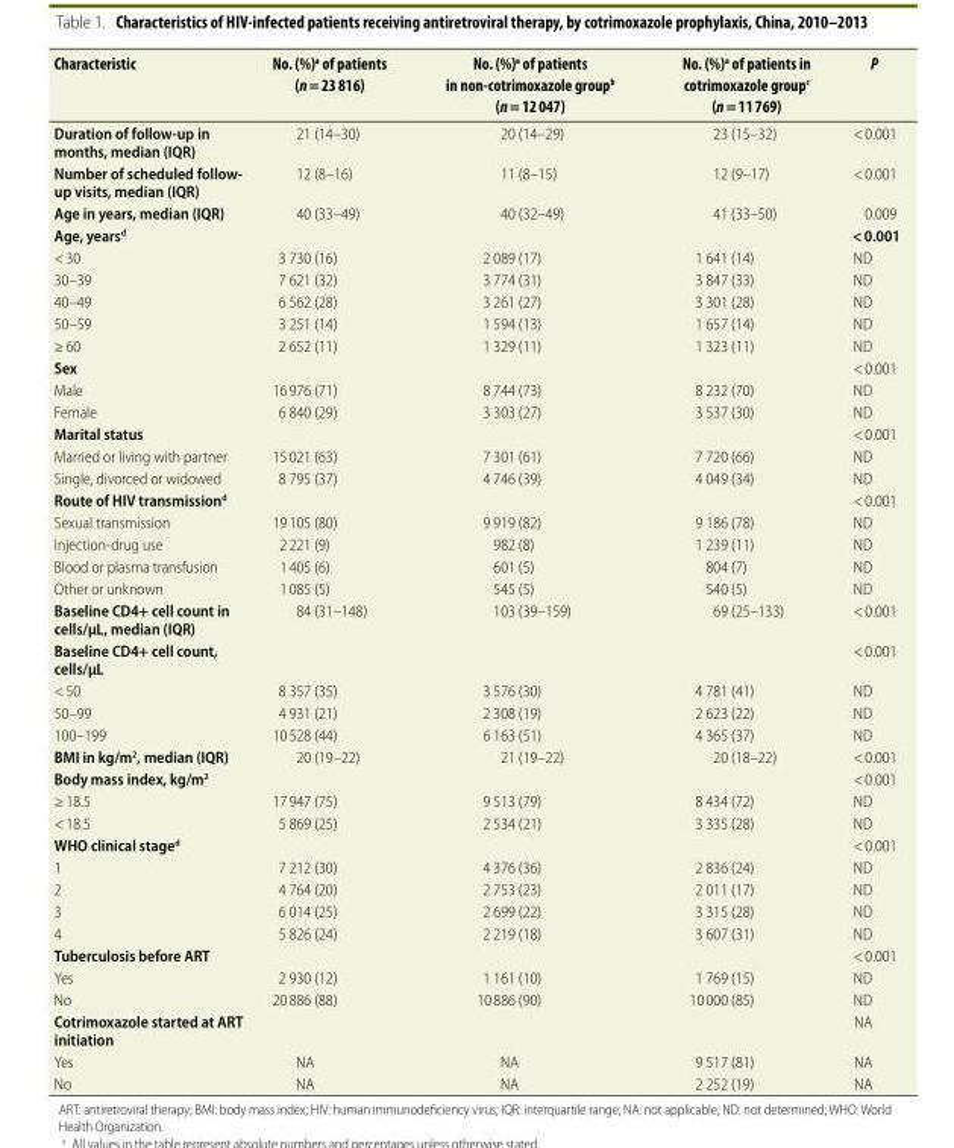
<table><thead><tr><td>Characteristic</td><td>No. (%)<sup>a</sup> of patients (n = 23 816)</td><td>No. (%)<sup>a</sup> of patients in non-cotrimoxazole group<sup>b</sup> (n = 12 047)</td><td>No. (%)<sup>a</sup> of patients in cotrimoxazole group<sup>c</sup> (n = 11 769)</td><td>P</td></tr></thead><tbody><tr><td>Duration of follow-up in months, median (IQR)</td><td>21 (14–30)</td><td>20 (14–29)</td><td>23 (15–32)</td><td>&lt; 0.001</td></tr><tr><td>Number of scheduled follow- up visits, median (IQR)</td><td>12 (8–16)</td><td>11 (8–15)</td><td>12 (9–17)</td><td>&lt; 0.001</td></tr><tr><td>Age in years, median (IQR)</td><td>40 (33–49)</td><td>40 (32–49)</td><td>41 (33–50)</td><td>0.009</td></tr><tr><td>Age, years<sup>d</sup></td><td></td><td></td><td></td><td>&lt; 0.001</td></tr><tr><td>&lt; 30</td><td>3 730 (16)</td><td>2 089 (17)</td><td>1 641 (14)</td><td>ND</td></tr><tr><td>30–39</td><td>7 621 (32)</td><td>3 774 (31)</td><td>3 847 (33)</td><td>ND</td></tr><tr><td>40–49</td><td>6 562 (28)</td><td>3 261 (27)</td><td>3 301 (28)</td><td>ND</td></tr><tr><td>50–59</td><td>3 251 (14)</td><td>1 594 (13)</td><td>1 657 (14)</td><td>ND</td></tr><tr><td>≥ 60</td><td>2 652 (11)</td><td>1 329 (11)</td><td>1 323 (11)</td><td>ND</td></tr><tr><td>Sex</td><td></td><td></td><td></td><td>&lt; 0.001</td></tr><tr><td>Male</td><td>16 976 (71)</td><td>8 744 (73)</td><td>8 232 (70)</td><td>ND</td></tr><tr><td>Female</td><td>6 840 (29)</td><td>3 303 (27)</td><td>3 537 (30)</td><td>ND</td></tr><tr><td>Marital status</td><td></td><td></td><td></td><td>&lt; 0.001</td></tr><tr><td>Married or living with partner</td><td>15 021 (63)</td><td>7 301 (61)</td><td>7 720 (66)</td><td>ND</td></tr><tr><td>Single, divorced or widowed</td><td>8 795 (37)</td><td>4 746 (39)</td><td>4 049 (34)</td><td>ND</td></tr><tr><td>Route of HIV transmission<sup>d</sup></td><td></td><td></td><td></td><td>&lt; 0.001</td></tr><tr><td>Sexual transmission</td><td>19 105 (80)</td><td>9 919 (82)</td><td>9 186 (78)</td><td>ND</td></tr><tr><td>Injection-drug use</td><td>2 221 (9)</td><td>982 (8)</td><td>1 239 (11)</td><td>ND</td></tr><tr><td>Blood or plasma transfusion</td><td>1 405 (6)</td><td>601 (5)</td><td>804 (7)</td><td>ND</td></tr><tr><td>Other or unknown</td><td>1 085 (5)</td><td>545 (5)</td><td>540 (5)</td><td>ND</td></tr><tr><td>Baseline CD4+ cell count in cells/µL, median (IQR)</td><td>84 (31–148)</td><td>103 (39–159)</td><td>69 (25–133)</td><td>&lt; 0.001</td></tr><tr><td>Baseline CD4+ cell count, cells/µL</td><td></td><td></td><td></td><td>&lt; 0.001</td></tr><tr><td>&lt; 50</td><td>8 357 (35)</td><td>3 576 (30)</td><td>4 781 (41)</td><td>ND</td></tr><tr><td>50–99</td><td>4 931 (21)</td><td>2 308 (19)</td><td>2 623 (22)</td><td>ND</td></tr><tr><td>100–199</td><td>10 528 (44)</td><td>6 163 (51)</td><td>4 365 (37)</td><td>ND</td></tr><tr><td>BMI in kg/m<sup>2</sup>, median (IQR)</td><td>20 (19–22)</td><td>21 (19–22)</td><td>20 (18–22)</td><td>&lt; 0.001</td></tr><tr><td>Body mass index, kg/m<sup>2</sup></td><td></td><td></td><td></td><td>&lt; 0.001</td></tr><tr><td>≥ 18.5</td><td>17 947 (75)</td><td>9 513 (79)</td><td>8 434 (72)</td><td>ND</td></tr><tr><td>&lt; 18.5</td><td>5 869 (25)</td><td>2 534 (21)</td><td>3 335 (28)</td><td>ND</td></tr><tr><td>WHO clinical stage<sup>d</sup></td><td></td><td></td><td></td><td>&lt; 0.001</td></tr><tr><td>1</td><td>7 212 (30)</td><td>4 376 (36)</td><td>2 836 (24)</td><td>ND</td></tr><tr><td>2</td><td>4 764 (20)</td><td>2 753 (23)</td><td>2 011 (17)</td><td>ND</td></tr><tr><td>3</td><td>6 014 (25)</td><td>2 699 (22)</td><td>3 315 (28)</td><td>ND</td></tr><tr><td>4</td><td>5 826 (24)</td><td>2 219 (18)</td><td>3 607 (31)</td><td>ND</td></tr><tr><td>Tuberculosis before ART</td><td></td><td></td><td></td><td>&lt; 0.001</td></tr><tr><td>Yes</td><td>2 930 (12)</td><td>1 161 (10)</td><td>1 769 (15)</td><td>ND</td></tr><tr><td>No</td><td>20 886 (88)</td><td>10 886 (90)</td><td>10 000 (85)</td><td>ND</td></tr><tr><td>Cotrimoxazole started at ART initiation</td><td></td><td></td><td></td><td>NA</td></tr><tr><td>Yes</td><td>NA</td><td>NA</td><td>9 517 (81)</td><td>NA</td></tr><tr><td>No</td><td>NA</td><td>NA</td><td>2 252 (19)</td><td>NA</td></tr></tbody></table>